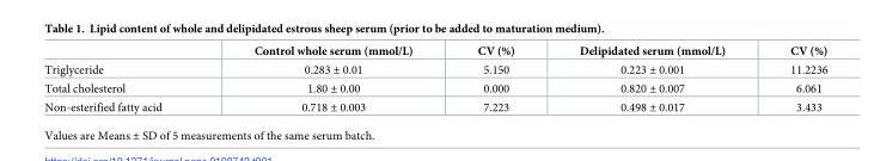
<table><thead><tr><td></td><td>Control whole serum (mmol/L)</td><td>CV (%)</td><td>Delipidated serum (mmol/L)</td><td>CV (%)</td></tr></thead><tbody><tr><td>Triglyceride</td><td>0.283 ± 0.01</td><td>5.150</td><td>0.223 ± 0.001</td><td>11.2236</td></tr><tr><td>Total cholesterol</td><td>1.80 ± 0.00</td><td>0.000</td><td>0.820 ± 0.007</td><td>6.061</td></tr><tr><td>Non-esterified fatty acid</td><td>0.718 ± 0.003</td><td>7.223</td><td>0.498 ± 0.017</td><td>3.433</td></tr></tbody></table>